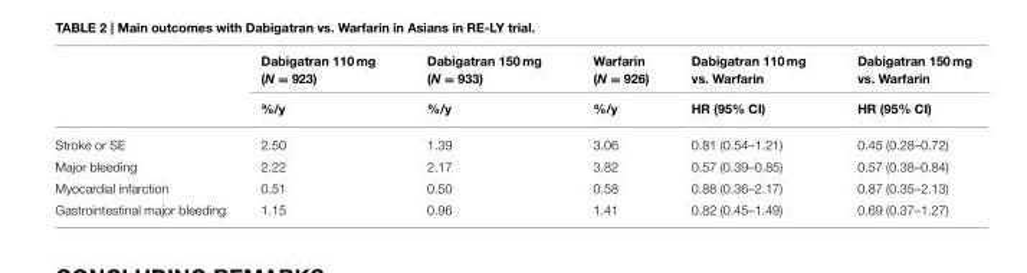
<table><thead><tr><td rowspan="2"></td><td rowspan="2">Dabigatran 110 mg (N = 923) %/y</td><td rowspan="2">Dabigatran 150 mg (N = 933) %/y</td><td rowspan="2">Warfarin (N = 926) %/y</td><td rowspan="2">Dabigatran 110 mg vs. Warfarin HR (95% CI)</td><td rowspan="2">Dabigatran 150 mg vs. Warfarin HR (95% CI)</td></tr><tr></tr></thead><tbody><tr><td>Stroke or SE</td><td>2.50</td><td>1.39</td><td>3.06</td><td>0.81 (0.54–1.21)</td><td>0.45 (0.28–0.72)</td></tr><tr><td>Major bleeding</td><td>2.22</td><td>2.17</td><td>3.82</td><td>0.57 (0.39–0.85)</td><td>0.57 (0.38–0.84)</td></tr><tr><td>Myocardial infarction</td><td>0.51</td><td>0.50</td><td>0.58</td><td>0.88 (0.36–2.17)</td><td>0.87 (0.35–2.13)</td></tr><tr><td>Gastrointestinal major bleeding</td><td>1.15</td><td>0.96</td><td>1.41</td><td>0.82 (0.45–1.49)</td><td>0.69 (0.37–1.27)</td></tr></tbody></table>